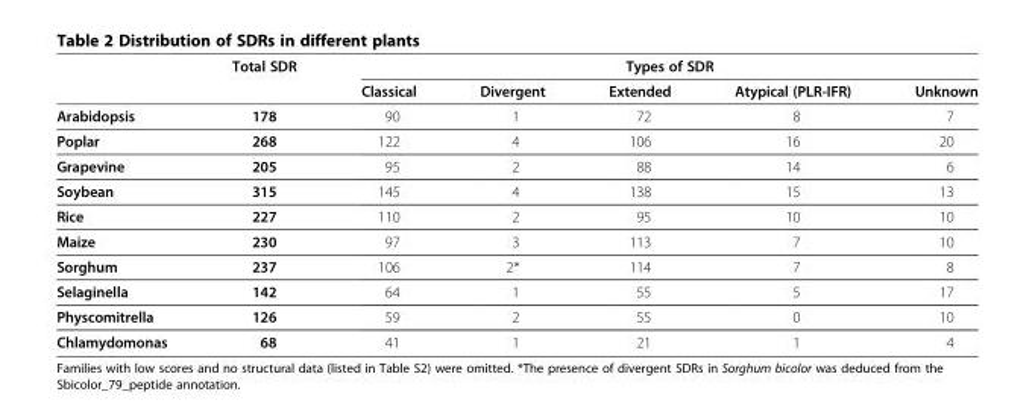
<table><thead><tr><td rowspan="2"></td><td rowspan="2">Total SDR</td><td colspan="5">Types of SDR</td></tr><tr><td>Classical</td><td>Divergent</td><td>Extended</td><td>Atypical (PLR-IFR)</td><td>Unknown</td></tr></thead><tbody><tr><td>Arabidopsis</td><td>178</td><td>90</td><td>1</td><td>72</td><td>8</td><td>7</td></tr><tr><td>Poplar</td><td>268</td><td>122</td><td>4</td><td>106</td><td>16</td><td>20</td></tr><tr><td>Grapevine</td><td>205</td><td>95</td><td>2</td><td>88</td><td>14</td><td>6</td></tr><tr><td>Soybean</td><td>315</td><td>145</td><td>4</td><td>138</td><td>15</td><td>13</td></tr><tr><td>Rice</td><td>227</td><td>110</td><td>2</td><td>95</td><td>10</td><td>10</td></tr><tr><td>Maize</td><td>230</td><td>97</td><td>3</td><td>113</td><td>7</td><td>10</td></tr><tr><td>Sorghum</td><td>237</td><td>106</td><td>2*</td><td>114</td><td>7</td><td>8</td></tr><tr><td>Selaginella</td><td>142</td><td>64</td><td>1</td><td>55</td><td>5</td><td>17</td></tr><tr><td>Physcomitrella</td><td>126</td><td>59</td><td>2</td><td>55</td><td>0</td><td>10</td></tr><tr><td>Chlamydomonas</td><td>68</td><td>41</td><td>1</td><td>21</td><td>1</td><td>4</td></tr></tbody></table>